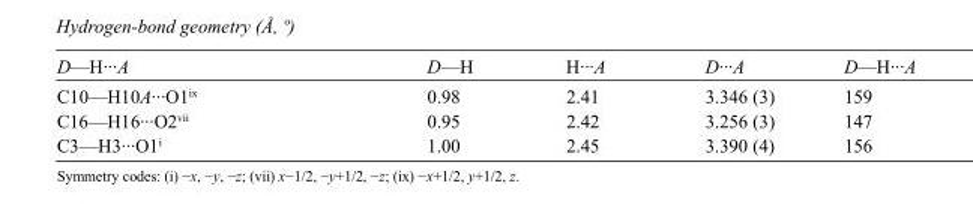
<table><tbody><tr><td>D—H···A</td><td>D—H</td><td>H···A</td><td>D···A</td><td>D—H···A</td></tr><tr><td>C10—H10A···O1<sup>ix</sup></td><td>0.98</td><td>2.41</td><td>3.346 (3)</td><td>159</td></tr><tr><td>C16—H16···O2<sup>vii</sup></td><td>0.95</td><td>2.42</td><td>3.256 (3)</td><td>147</td></tr><tr><td>C3—H3···O1<sup>i</sup></td><td>1.00</td><td>2.45</td><td>3.390 (4)</td><td>156</td></tr></tbody></table>